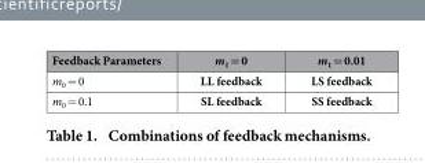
<table><thead><tr><td>Feedback Parameters</td><td>m<sub>1</sub> = 0</td><td>m<sub>1</sub> = 0.01</td></tr></thead><tbody><tr><td>m<sub>0</sub> = 0</td><td>LL feedback</td><td>LS feedback</td></tr><tr><td>m<sub>0</sub> = 0.1</td><td>SL feedback</td><td>SS feedback</td></tr></tbody></table>